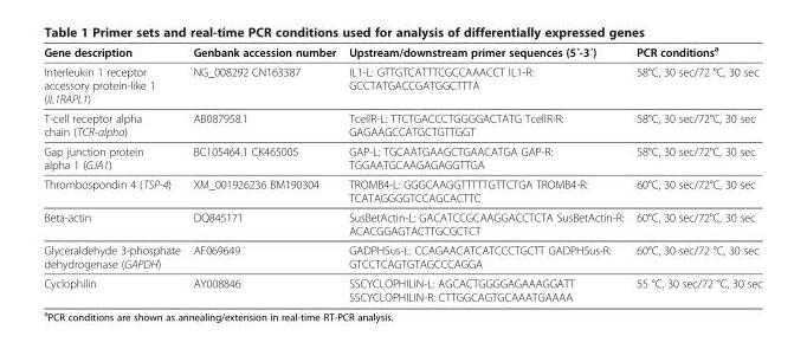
<table><thead><tr><td>Gene description</td><td>Genbank accession number</td><td>Upstream/downstream primer sequences (5´-3´)</td><td>PCR conditions<sup>a</sup></td></tr></thead><tbody><tr><td>Interleukin 1 receptor accessory protein-like 1 (IL1RAPL1)</td><td>NG_008292 CN163387</td><td>IL1-L: GTTGTCATTTCGCCAAACCT IL1-R: GCCTATGACCGATGGCTTTA</td><td>58°C, 30 sec/72 °C, 30 sec</td></tr><tr><td>T-cell receptor alpha chain (TCR-alpha)</td><td>AB087958.1</td><td>TcellR-L: TTCTGACCCTGGGGACTATG TcellR-R: GAGAAGCCATGCTGTTGGT</td><td>58°C, 30 sec/72°C, 30 sec</td></tr><tr><td>Gap junction protein alpha 1 (GJA1)</td><td>BC105464.1 CK465005</td><td>GAP-L: TGCAATGAAGCTGAACATGA GAP-R: TGGAATGCAAGAGAGGTTGA</td><td>58°C, 30 sec/72°C, 30 sec</td></tr><tr><td>Thrombospondin 4 (TSP-4)</td><td>XM_001926236 BM190304</td><td>TROMB4-L: GGGCAAGGTTTTTGTTCTGA TROMB4-R: TCATAGGGGTCCAGCACTTC</td><td>60°C, 30 sec/72°C, 30 sec</td></tr><tr><td>Beta-actin</td><td>DQ845171</td><td>SusBetActin-L: GACATCCGCAAGGACCTCTA SusBetActin-R: ACACGGAGTACTTGCGCTCT</td><td>60°C, 30 sec/72°C, 30 sec</td></tr><tr><td>Glyceraldehyde 3-phosphate dehydrogenase (GAPDH)</td><td>AF069649</td><td>GADPHSus-L: CCAGAACATCATCCCTGCTT GADPHSus-R: GTCCTCAGTGTAGCCCAGGA</td><td>60°C, 30 sec/72 °C, 30 sec</td></tr><tr><td>Cyclophilin</td><td>AY008846</td><td>SSCYCLOPHILIN-L: AGCACTGGGGAGAAAGGATT SSCYCLOPHILIN-R: CTTGGCAGTGCAAATGAAAA</td><td>55 °C, 30 sec/72 °C, 30 sec</td></tr></tbody></table>